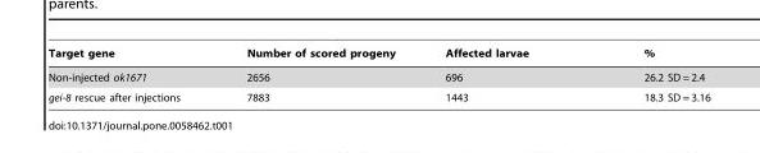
<table><thead><tr><td>Target gene</td><td>Number of scored progeny</td><td>Affected larvae</td><td>%</td></tr></thead><tbody><tr><td>Non-injected ok1671</td><td>2656</td><td>696</td><td>26.2 SD = 2.4</td></tr><tr><td>gei-8 rescue after injections</td><td>7883</td><td>1443</td><td>18.3 SD = 3.16</td></tr></tbody></table>